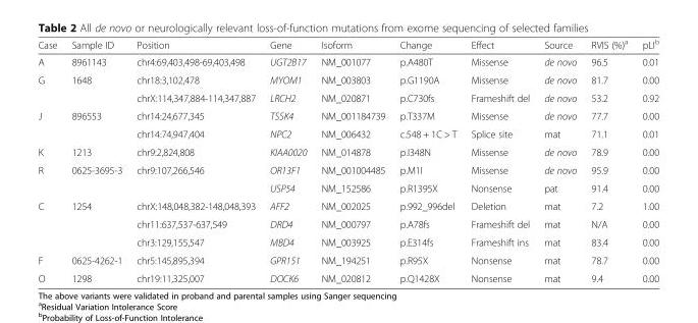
<table><thead><tr><td>Case</td><td>Sample ID</td><td>Position</td><td>Gene</td><td>Isoform</td><td>Change</td><td>Effect</td><td>Source</td><td>RVIS (%)<sup>a</sup></td><td>pLI<sup>b</sup></td></tr></thead><tbody><tr><td>A</td><td>8961143</td><td>chr4:69,403,498-69,403,498</td><td>UGT2B17</td><td>NM_001077</td><td>p.A480T</td><td>Missense</td><td>de novo</td><td>96.5</td><td>0.01</td></tr><tr><td rowspan="2">G</td><td>1648</td><td>chr18:3,102,478</td><td>MYOM1</td><td>NM_003803</td><td>p.G1190A</td><td>Missense</td><td>de novo</td><td>81.7</td><td>0.00</td></tr><tr><td></td><td>chrX:114,347,884-114,347,887</td><td>LRCH2</td><td>NM_020871</td><td>p.C730fs</td><td>Frameshift del</td><td>de novo</td><td>53.2</td><td>0.92</td></tr><tr><td rowspan="2">J</td><td>896553</td><td>chr14:24,677,345</td><td>TSSK4</td><td>NM_001184739</td><td>p.T337M</td><td>Missense</td><td>de novo</td><td>77.7</td><td>0.00</td></tr><tr><td></td><td>chr14:74,947,404</td><td>NPC2</td><td>NM_006432</td><td>c.548 + 1C &gt; T</td><td>Splice site</td><td>mat</td><td>71.1</td><td>0.01</td></tr><tr><td>K</td><td>1213</td><td>chr9:2,824,808</td><td>KIAA0020</td><td>NM_014878</td><td>p.I348N</td><td>Missense</td><td>de novo</td><td>78.9</td><td>0.00</td></tr><tr><td rowspan="2">R</td><td>0625-3695-3</td><td>chr9:107,266,546</td><td>OR13F1</td><td>NM_001004485</td><td>p.M1I</td><td>Missense</td><td>de novo</td><td>95.9</td><td>0.00</td></tr><tr><td></td><td></td><td>USP54</td><td>NM_152586</td><td>p.R1395X</td><td>Nonsense</td><td>pat</td><td>91.4</td><td>0.00</td></tr><tr><td rowspan="3">C</td><td>1254</td><td>chrX:148,048,382-148,048,393</td><td>AFF2</td><td>NM_002025</td><td>p.992_996del</td><td>Deletion</td><td>mat</td><td>7.2</td><td>1.00</td></tr><tr><td></td><td>chr11:637,537-637,549</td><td>DRD4</td><td>NM_000797</td><td>p.A78fs</td><td>Frameshift del</td><td>mat</td><td>N/A</td><td>0.00</td></tr><tr><td></td><td>chr3:129,155,547</td><td>MBD4</td><td>NM_003925</td><td>p.E314fs</td><td>Frameshift ins</td><td>mat</td><td>83.4</td><td>0.00</td></tr><tr><td>F</td><td>0625-4262-1</td><td>chr5:145,895,394</td><td>GPR151</td><td>NM_194251</td><td>p.R95X</td><td>Nonsense</td><td>mat</td><td>78.7</td><td>0.00</td></tr><tr><td>O</td><td>1298</td><td>chr19:11,325,007</td><td>DOCK6</td><td>NM_020812</td><td>p.Q1428X</td><td>Nonsense</td><td>mat</td><td>9.4</td><td>0.00</td></tr></tbody></table>